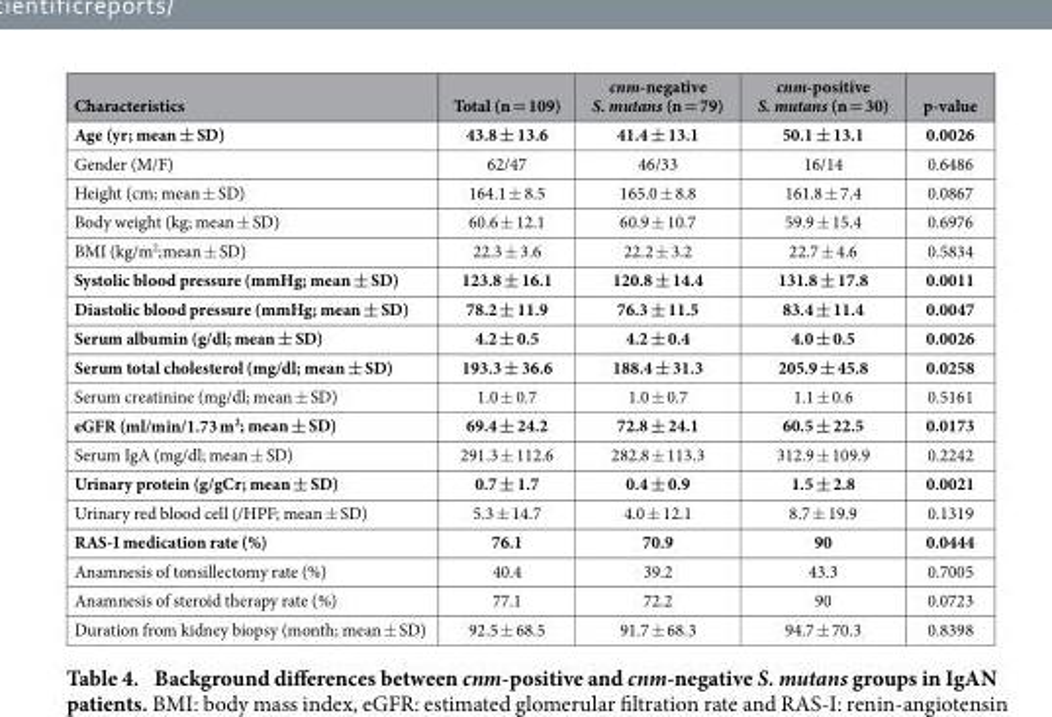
<table><thead><tr><td>Characteristics</td><td>Total (n = 109)</td><td>cnm-negative S. mutans (n = 79)</td><td>cnm-positive S. mutans (n = 30)</td><td>p-value</td></tr></thead><tbody><tr><td>Age (yr; mean ± SD)</td><td>43.8 ± 13.6</td><td>41.4 ± 13.1</td><td>50.1 ± 13.1</td><td>0.0026</td></tr><tr><td>Gender (M/F)</td><td>62/47</td><td>46/33</td><td>16/14</td><td>0.6486</td></tr><tr><td>Height (cm; mean ± SD)</td><td>164.1 ± 8.5</td><td>165.0 ± 8.8</td><td>161.8 ± 7.4</td><td>0.0867</td></tr><tr><td>Body weight (kg; mean ± SD)</td><td>60.6 ± 12.1</td><td>60.9 ± 10.7</td><td>59.9 ± 15.4</td><td>0.6976</td></tr><tr><td>BMI (kg/m<sup>2</sup>;mean ± SD)</td><td>22.3 ± 3.6</td><td>22.2 ± 3.2</td><td>22.7 ± 4.6</td><td>0.5834</td></tr><tr><td>Systolic blood pressure (mmHg; mean ± SD)</td><td>123.8 ± 16.1</td><td>120.8 ± 14.4</td><td>131.8 ± 17.8</td><td>0.0011</td></tr><tr><td>Diastolic blood pressure (mmHg; mean ± SD)</td><td>78.2 ± 11.9</td><td>76.3 ± 11.5</td><td>83.4 ± 11.4</td><td>0.0047</td></tr><tr><td>Serum albumin (g/dl; mean ± SD)</td><td>4.2 ± 0.5</td><td>4.2 ± 0.4</td><td>4.0 ± 0.5</td><td>0.0026</td></tr><tr><td>Serum total cholesterol (mg/dl; mean ± SD)</td><td>193.3 ± 36.6</td><td>188.4 ± 31.3</td><td>205.9 ± 45.8</td><td>0.0258</td></tr><tr><td>Serum creatinine (mg/dl; mean ± SD)</td><td>1.0 ± 0.7</td><td>1.0 ± 0.7</td><td>1.1 ± 0.6</td><td>0.5161</td></tr><tr><td>eGFR (ml/min/1.73 m<sup>2</sup>; mean ± SD)</td><td>69.4 ± 24.2</td><td>72.8 ± 24.1</td><td>60.5 ± 22.5</td><td>0.0173</td></tr><tr><td>Serum IgA (mg/dl; mean ± SD)</td><td>291.3 ± 112.6</td><td>282.8 ± 113.3</td><td>312.9 ± 109.9</td><td>0.2242</td></tr><tr><td>Urinary protein (g/gCr; mean ± SD)</td><td>0.7 ± 1.7</td><td>0.4 ± 0.9</td><td>1.5 ± 2.8</td><td>0.0021</td></tr><tr><td>Urinary red blood cell (/HPF; mean ± SD)</td><td>5.3 ± 14.7</td><td>4.0 ± 12.1</td><td>8.7 ± 19.9</td><td>0.1319</td></tr><tr><td>RAS-I medication rate (%)</td><td>76.1</td><td>70.9</td><td>90</td><td>0.0444</td></tr><tr><td>Anamnesis of tonsillectomy rate (%)</td><td>40.4</td><td>39.2</td><td>43.3</td><td>0.7005</td></tr><tr><td>Anamnesis of steroid therapy rate (%)</td><td>77.1</td><td>72.2</td><td>90</td><td>0.0723</td></tr><tr><td>Duration from kidney biopsy (month; mean ± SD)</td><td>92.5 ± 68.5</td><td>91.7 ± 68.3</td><td>94.7 ± 70.3</td><td>0.8398</td></tr></tbody></table>